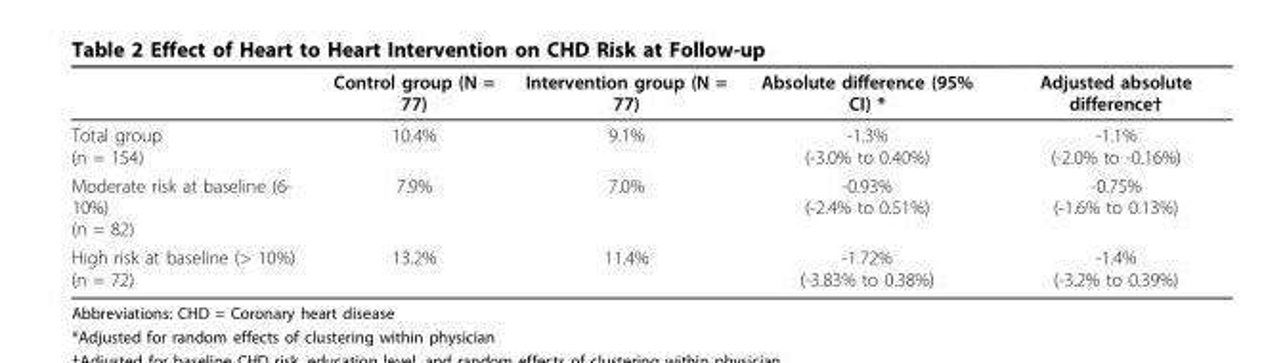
<table><thead><tr><td></td><td>Control group (N = 77)</td><td>Intervention group (N = 77)</td><td>Absolute difference (95% CI) *</td><td>Adjusted absolute difference†</td></tr></thead><tbody><tr><td>Total group (n = 154)</td><td>10.4%</td><td>9.1%</td><td>-1.3% (-3.0% to 0.40%)</td><td>-1.1% (-2.0% to -0.16%)</td></tr><tr><td>Moderate risk at baseline (6- 10%) (n = 82)</td><td>7.9%</td><td>7.0%</td><td>-0.93% (-2.4% to 0.51%)</td><td>-0.75% (-1.6% to 0.13%)</td></tr><tr><td>High risk at baseline (&gt; 10%) (n = 72)</td><td>13.2%</td><td>11.4%</td><td>-1.72% (-3.83% to 0.38%)</td><td>-1.4% (-3.2% to 0.39%)</td></tr></tbody></table>